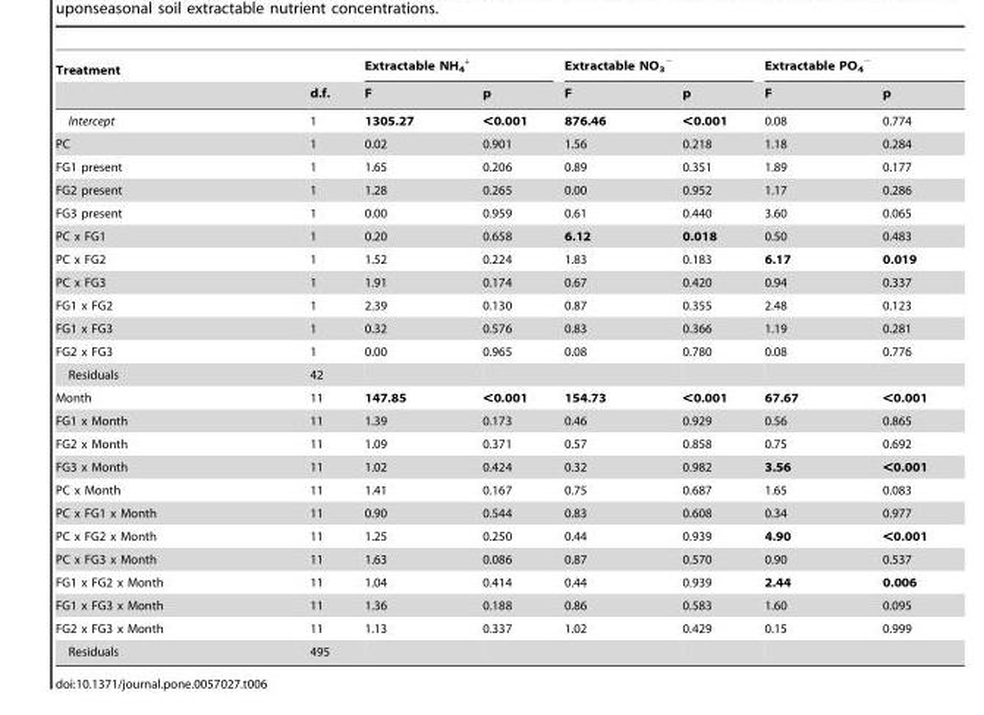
<table><thead><tr><td rowspan="2">Treatment</td><td rowspan="2">d.f.</td><td colspan="2">Extractable NH<sub>4</sub> <sup>+</sup></td><td colspan="2">Extractable NO<sub>3</sub> <sup>−</sup></td><td colspan="2">Extractable PO<sub>4</sub> <sup>−</sup></td></tr><tr><td>F</td><td>p</td><td>F</td><td>p</td><td>F</td><td>p</td></tr></thead><tbody><tr><td>Intercept</td><td>1</td><td>1305.27</td><td>&lt;0.001</td><td>876.46</td><td>&lt;0.001</td><td>0.08</td><td>0.774</td></tr><tr><td>PC</td><td>1</td><td>0.02</td><td>0.901</td><td>1.56</td><td>0.218</td><td>1.18</td><td>0.284</td></tr><tr><td>FG1 present</td><td>1</td><td>1.65</td><td>0.206</td><td>0.89</td><td>0.351</td><td>1.89</td><td>0.177</td></tr><tr><td>FG2 present</td><td>1</td><td>1.28</td><td>0.265</td><td>0.00</td><td>0.952</td><td>1.17</td><td>0.286</td></tr><tr><td>FG3 present</td><td>1</td><td>0.00</td><td>0.959</td><td>0.61</td><td>0.440</td><td>3.60</td><td>0.065</td></tr><tr><td>PC x FG1</td><td>1</td><td>0.20</td><td>0.658</td><td>6.12</td><td>0.018</td><td>0.50</td><td>0.483</td></tr><tr><td>PC x FG2</td><td>1</td><td>1.52</td><td>0.224</td><td>1.83</td><td>0.183</td><td>6.17</td><td>0.019</td></tr><tr><td>PC x FG3</td><td>1</td><td>1.91</td><td>0.174</td><td>0.67</td><td>0.420</td><td>0.94</td><td>0.337</td></tr><tr><td>FG1 x FG2</td><td>1</td><td>2.39</td><td>0.130</td><td>0.87</td><td>0.355</td><td>2.48</td><td>0.123</td></tr><tr><td>FG1 x FG3</td><td>1</td><td>0.32</td><td>0.576</td><td>0.83</td><td>0.366</td><td>1.19</td><td>0.281</td></tr><tr><td>FG2 x FG3</td><td>1</td><td>0.00</td><td>0.965</td><td>0.08</td><td>0.780</td><td>0.08</td><td>0.776</td></tr><tr><td>Residuals</td><td>42</td><td></td><td></td><td></td><td></td><td></td><td></td></tr><tr><td>Month</td><td>11</td><td>147.85</td><td>&lt;0.001</td><td>154.73</td><td>&lt;0.001</td><td>67.67</td><td>&lt;0.001</td></tr><tr><td>FG1 x Month</td><td>11</td><td>1.39</td><td>0.173</td><td>0.46</td><td>0.929</td><td>0.56</td><td>0.865</td></tr><tr><td>FG2 x Month</td><td>11</td><td>1.09</td><td>0.371</td><td>0.57</td><td>0.858</td><td>0.75</td><td>0.692</td></tr><tr><td>FG3 x Month</td><td>11</td><td>1.02</td><td>0.424</td><td>0.32</td><td>0.982</td><td>3.56</td><td>&lt;0.001</td></tr><tr><td>PC x Month</td><td>11</td><td>1.41</td><td>0.167</td><td>0.75</td><td>0.687</td><td>1.65</td><td>0.083</td></tr><tr><td>PC x FG1 x Month</td><td>11</td><td>0.90</td><td>0.544</td><td>0.83</td><td>0.608</td><td>0.34</td><td>0.977</td></tr><tr><td>PC x FG2 x Month</td><td>11</td><td>1.25</td><td>0.250</td><td>0.44</td><td>0.939</td><td>4.90</td><td>&lt;0.001</td></tr><tr><td>PC x FG3 x Month</td><td>11</td><td>1.63</td><td>0.086</td><td>0.87</td><td>0.570</td><td>0.90</td><td>0.537</td></tr><tr><td>FG1 x FG2 x Month</td><td>11</td><td>1.04</td><td>0.414</td><td>0.44</td><td>0.939</td><td>2.44</td><td>0.006</td></tr><tr><td>FG1 x FG3 x Month</td><td>11</td><td>1.36</td><td>0.188</td><td>0.86</td><td>0.583</td><td>1.60</td><td>0.095</td></tr><tr><td>FG2 x FG3 x Month</td><td>11</td><td>1.13</td><td>0.337</td><td>1.02</td><td>0.429</td><td>0.15</td><td>0.999</td></tr><tr><td>Residuals</td><td>495</td><td></td><td></td><td></td><td></td><td></td><td></td></tr></tbody></table>